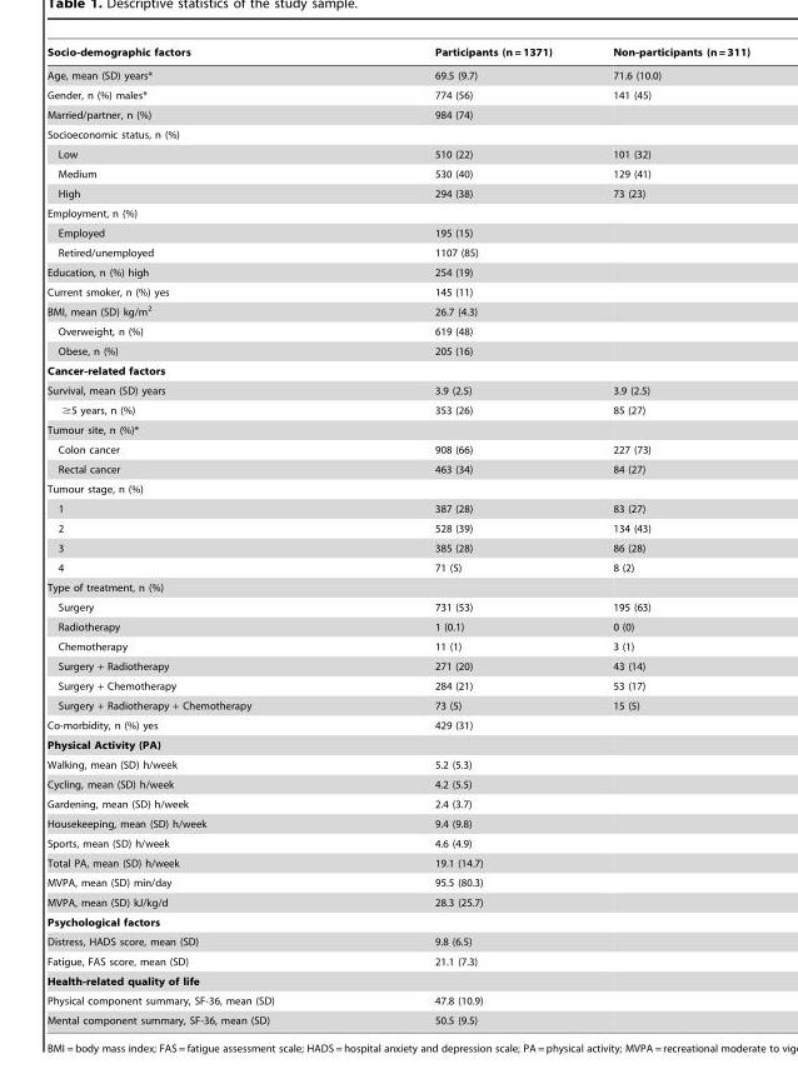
<table><thead><tr><td>Socio-demographic factors</td><td>Participants (n = 1371)</td><td>Non-participants (n = 311)</td></tr></thead><tbody><tr><td>Age, mean (SD) years*</td><td>69.5 (9.7)</td><td>71.6 (10.0)</td></tr><tr><td>Gender, n (%) males*</td><td>774 (56)</td><td>141 (45)</td></tr><tr><td>Married/partner, n (%)</td><td>984 (74)</td><td></td></tr><tr><td colspan="3">Socioeconomic status, n (%)</td></tr><tr><td>Low</td><td>510 (22)</td><td>101 (32)</td></tr><tr><td>Medium</td><td>530 (40)</td><td>129 (41)</td></tr><tr><td>High</td><td>294 (38)</td><td>73 (23)</td></tr><tr><td colspan="3">Employment, n (%)</td></tr><tr><td>Employed</td><td>195 (15)</td><td></td></tr><tr><td>Retired/unemployed</td><td>1107 (85)</td><td></td></tr><tr><td>Education, n (%) high</td><td>254 (19)</td><td></td></tr><tr><td>Current smoker, n (%) yes</td><td>145 (11)</td><td></td></tr><tr><td>BMI, mean (SD) kg/m<sup>2</sup></td><td>26.7 (4.3)</td><td></td></tr><tr><td>Overweight, n (%)</td><td>619 (48)</td><td></td></tr><tr><td>Obese, n (%)</td><td>205 (16)</td><td></td></tr><tr><td colspan="3">Cancer-related factors</td></tr><tr><td>Survival, mean (SD) years</td><td>3.9 (2.5)</td><td>3.9 (2.5)</td></tr><tr><td>≥5 years, n (%)</td><td>353 (26)</td><td>85 (27)</td></tr><tr><td colspan="3">Tumour site, n (%)*</td></tr><tr><td>Colon cancer</td><td>908 (66)</td><td>227 (73)</td></tr><tr><td>Rectal cancer</td><td>463 (34)</td><td>84 (27)</td></tr><tr><td colspan="3">Tumour stage, n (%)</td></tr><tr><td>1</td><td>387 (28)</td><td>83 (27)</td></tr><tr><td>2</td><td>528 (39)</td><td>134 (43)</td></tr><tr><td>3</td><td>385 (28)</td><td>86 (28)</td></tr><tr><td>4</td><td>71 (5)</td><td>8 (2)</td></tr><tr><td colspan="3">Type of treatment, n (%)</td></tr><tr><td>Surgery</td><td>731 (53)</td><td>195 (63)</td></tr><tr><td>Radiotherapy</td><td>1 (0.1)</td><td>0 (0)</td></tr><tr><td>Chemotherapy</td><td>11 (1)</td><td>3 (1)</td></tr><tr><td>Surgery + Radiotherapy</td><td>271 (20)</td><td>43 (14)</td></tr><tr><td>Surgery + Chemotherapy</td><td>284 (21)</td><td>53 (17)</td></tr><tr><td>Surgery + Radiotherapy + Chemotherapy</td><td>73 (5)</td><td>15 (5)</td></tr><tr><td>Co-morbidity, n (%) yes</td><td>429 (31)</td><td></td></tr><tr><td colspan="3">Physical Activity (PA)</td></tr><tr><td>Walking, mean (SD) h/week</td><td>5.2 (5.3)</td><td></td></tr><tr><td>Cycling, mean (SD) h/week</td><td>4.2 (5.5)</td><td></td></tr><tr><td>Gardening, mean (SD) h/week</td><td>2.4 (3.7)</td><td></td></tr><tr><td>Housekeeping, mean (SD) h/week</td><td>9.4 (9.8)</td><td></td></tr><tr><td>Sports, mean (SD) h/week</td><td>4.6 (4.9)</td><td></td></tr><tr><td>Total PA, mean (SD) h/week</td><td>19.1 (14.7)</td><td></td></tr><tr><td>MVPA, mean (SD) min/day</td><td>95.5 (80.3)</td><td></td></tr><tr><td>MVPA, mean (SD) kJ/kg/d</td><td>28.3 (25.7)</td><td></td></tr><tr><td colspan="3">Psychological factors</td></tr><tr><td>Distress, HADS score, mean (SD)</td><td>9.8 (6.5)</td><td></td></tr><tr><td>Fatigue, FAS score, mean (SD)</td><td>21.1 (7.3)</td><td></td></tr><tr><td colspan="3">Health-related quality of life</td></tr><tr><td>Physical component summary, SF-36, mean (SD)</td><td>47.8 (10.9)</td><td></td></tr><tr><td>Mental component summary, SF-36, mean (SD)</td><td>50.5 (9.5)</td><td></td></tr></tbody></table>